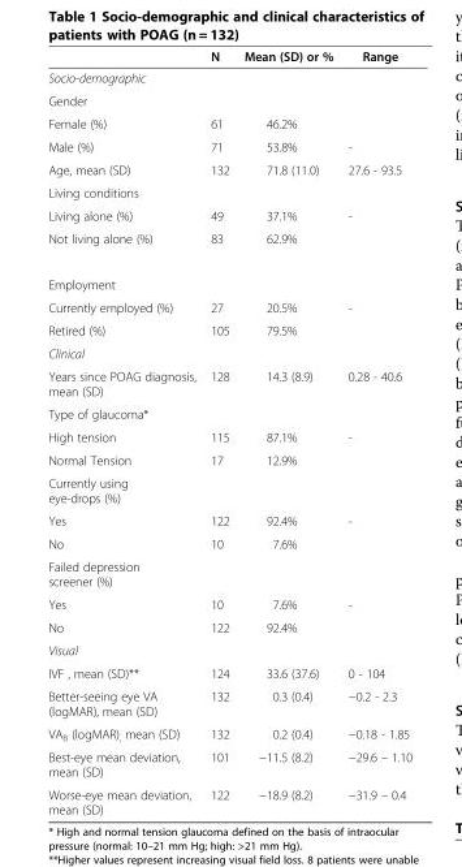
<table><thead><tr><td></td><td>N</td><td>Mean (SD) or %</td><td>Range</td></tr></thead><tbody><tr><td colspan="4">Socio-demographic</td></tr><tr><td colspan="4">Gender</td></tr><tr><td>Female (%)</td><td>61</td><td>46.2%</td><td></td></tr><tr><td>Male (%)</td><td>71</td><td>53.8%</td><td>-</td></tr><tr><td>Age, mean (SD)</td><td>132</td><td>71.8 (11.0)</td><td>27.6 - 93.5</td></tr><tr><td colspan="4">Living conditions</td></tr><tr><td>Living alone (%)</td><td>49</td><td>37.1%</td><td>-</td></tr><tr><td>Not living alone (%)</td><td>83</td><td>62.9%</td><td></td></tr><tr><td colspan="4">Employment</td></tr><tr><td>Currently employed (%)</td><td>27</td><td>20.5%</td><td>-</td></tr><tr><td>Retired (%)</td><td>105</td><td>79.5%</td><td></td></tr><tr><td colspan="4">Clinical</td></tr><tr><td>Years since POAG diagnosis, mean (SD)</td><td>128</td><td>14.3 (8.9)</td><td>0.28 - 40.6</td></tr><tr><td colspan="4">Type of glaucoma*</td></tr><tr><td>High tension</td><td>115</td><td>87.1%</td><td>-</td></tr><tr><td>Normal Tension</td><td>17</td><td>12.9%</td><td></td></tr><tr><td colspan="4">Currently using eye-drops (%)</td></tr><tr><td>Yes</td><td>122</td><td>92.4%</td><td>-</td></tr><tr><td>No</td><td>10</td><td>7.6%</td><td></td></tr><tr><td colspan="4">Failed depression screener (%)</td></tr><tr><td>Yes</td><td>10</td><td>7.6%</td><td>-</td></tr><tr><td>No</td><td>122</td><td>92.4%</td><td></td></tr><tr><td colspan="4">Visual</td></tr><tr><td>IVF , mean (SD)**</td><td>124</td><td>33.6 (37.6)</td><td>0 - 104</td></tr><tr><td>Better-seeing eye VA (logMAR), mean (SD)</td><td>132</td><td>0.3 (0.4)</td><td>−0.2 - 2.3</td></tr><tr><td>VA<sub>B</sub> (logMAR)<sub>,</sub> mean (SD)</td><td>132</td><td>0.2 (0.4)</td><td>−0.18 - 1.85</td></tr><tr><td>Best-eye mean deviation, mean (SD)</td><td>101</td><td>−11.5 (8.2)</td><td>−29.6 – 1.10</td></tr><tr><td>Worse-eye mean deviation, mean (SD)</td><td>122</td><td>−18.9 (8.2)</td><td>−31.9 – 0.4</td></tr></tbody></table>